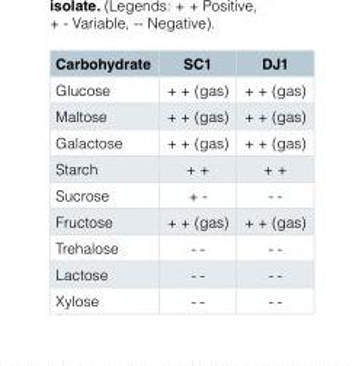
<table><thead><tr><td>Carbohydrate</td><td>SC1</td><td>DJ1</td></tr></thead><tbody><tr><td>Glucose</td><td>+ + (gas)</td><td>+ + (gas)</td></tr><tr><td>Maltose</td><td>+ + (gas)</td><td>+ + (gas)</td></tr><tr><td>Galactose</td><td>+ + (gas)</td><td>+ + (gas)</td></tr><tr><td>Starch</td><td>+ +</td><td>+ +</td></tr><tr><td>Sucrose</td><td>+ -</td><td>- -</td></tr><tr><td>Fructose</td><td>+ + (gas)</td><td>+ + (gas)</td></tr><tr><td>Trehalose</td><td>- -</td><td>- -</td></tr><tr><td>Lactose</td><td>- -</td><td>- -</td></tr><tr><td>Xylose</td><td>- -</td><td>- -</td></tr></tbody></table>